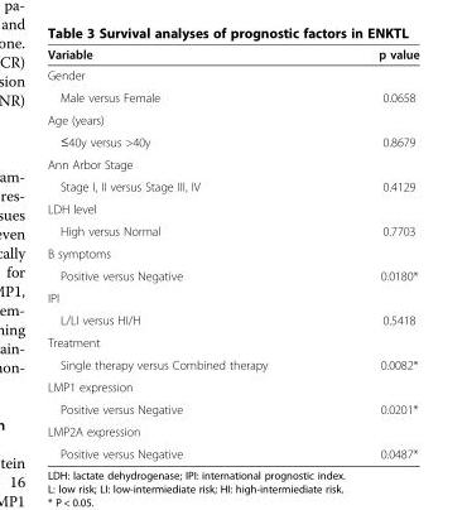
<table><thead><tr><td>Variable</td><td>p value</td></tr></thead><tbody><tr><td colspan="2">Gender</td></tr><tr><td>Male versus Female</td><td>0.0658</td></tr><tr><td colspan="2">Age (years)</td></tr><tr><td>≤40y versus &gt;40y</td><td>0.8679</td></tr><tr><td colspan="2">Ann Arbor Stage</td></tr><tr><td>Stage I, II versus Stage III, IV</td><td>0.4129</td></tr><tr><td colspan="2">LDH level</td></tr><tr><td>High versus Normal</td><td>0.7703</td></tr><tr><td colspan="2">B symptoms</td></tr><tr><td>Positive versus Negative</td><td>0.0180*</td></tr><tr><td colspan="2">IPI</td></tr><tr><td>L/LI versus HI/H</td><td>0.5418</td></tr><tr><td colspan="2">Treatment</td></tr><tr><td>Single therapy versus Combined therapy</td><td>0.0082*</td></tr><tr><td colspan="2">LMP1 expression</td></tr><tr><td>Positive versus Negative</td><td>0.0201*</td></tr><tr><td colspan="2">LMP2A expression</td></tr><tr><td>Positive versus Negative</td><td>0.0487*</td></tr></tbody></table>